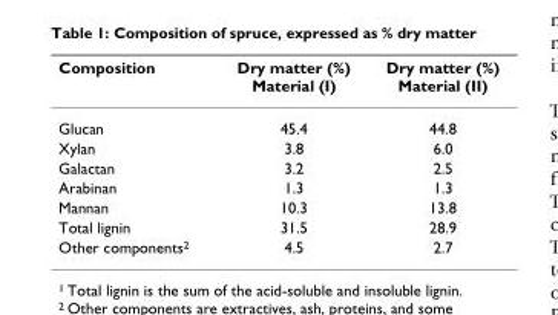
<table><thead><tr><td>Composition</td><td>Dry matter (%) Material (I)</td><td>Dry matter (%) Material (II)</td></tr></thead><tbody><tr><td>Glucan</td><td>45.4</td><td>44.8</td></tr><tr><td>Xylan</td><td>3.8</td><td>6.0</td></tr><tr><td>Galactan</td><td>3.2</td><td>2.5</td></tr><tr><td>Arabinan</td><td>1.3</td><td>1.3</td></tr><tr><td>Mannan</td><td>10.3</td><td>13.8</td></tr><tr><td>Total lignin</td><td>31.5</td><td>28.9</td></tr><tr><td>Other components<sup>2</sup></td><td>4.5</td><td>2.7</td></tr></tbody></table>